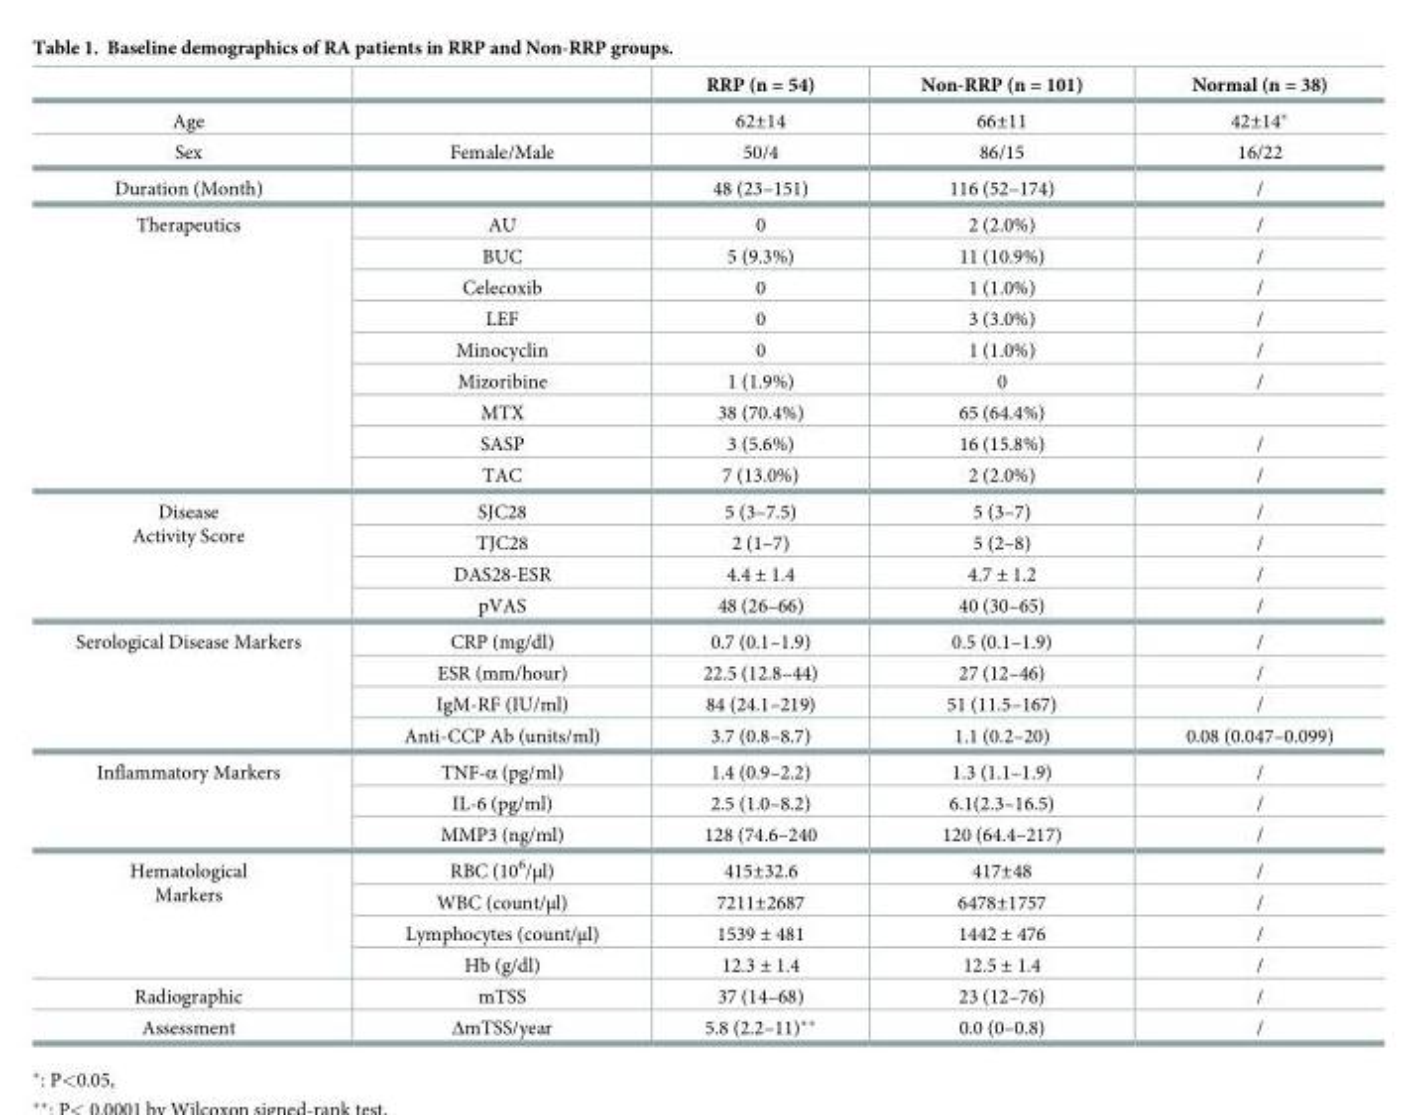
<table><thead><tr><td></td><td></td><td>RRP (n = 54)</td><td>Non-RRP (n = 101)</td><td>Normal (n = 38)</td></tr></thead><tbody><tr><td>Age</td><td></td><td>62±14</td><td>66±11</td><td>42±14*</td></tr><tr><td>Sex</td><td>Female/Male</td><td>50/4</td><td>86/15</td><td>16/22</td></tr><tr><td>Duration (Month)</td><td></td><td>48 (23–151)</td><td>116 (52–174)</td><td>/</td></tr><tr><td rowspan="9">Therapeutics</td><td>AU</td><td>0</td><td>2 (2.0%)</td><td>/</td></tr><tr><td>BUC</td><td>5 (9.3%)</td><td>11 (10.9%)</td><td>/</td></tr><tr><td>Celecoxib</td><td>0</td><td>1 (1.0%)</td><td>/</td></tr><tr><td>LEF</td><td>0</td><td>3 (3.0%)</td><td>/</td></tr><tr><td>Minocyclin</td><td>0</td><td>1 (1.0%)</td><td>/</td></tr><tr><td>Mizoribine</td><td>1 (1.9%)</td><td>0</td><td>/</td></tr><tr><td>MTX</td><td>38 (70.4%)</td><td>65 (64.4%)</td><td></td></tr><tr><td>SASP</td><td>3 (5.6%)</td><td>16 (15.8%)</td><td>/</td></tr><tr><td>TAC</td><td>7 (13.0%)</td><td>2 (2.0%)</td><td>/</td></tr><tr><td rowspan="4">Disease Activity Score</td><td>SJC28</td><td>5 (3–7.5)</td><td>5 (3–7)</td><td>/</td></tr><tr><td>TJC28</td><td>2 (1–7)</td><td>5 (2–8)</td><td>/</td></tr><tr><td>DAS28-ESR</td><td>4.4 ± 1.4</td><td>4.7 ± 1.2</td><td>/</td></tr><tr><td>pVAS</td><td>48 (26–66)</td><td>40 (30–65)</td><td>/</td></tr><tr><td rowspan="4">Serological Disease Markers</td><td>CRP (mg/dl)</td><td>0.7 (0.1–1.9)</td><td>0.5 (0.1–1.9)</td><td>/</td></tr><tr><td>ESR (mm/hour)</td><td>22.5 (12.8–44)</td><td>27 (12–46)</td><td>/</td></tr><tr><td>IgM-RF (IU/ml)</td><td>84 (24.1–219)</td><td>51 (11.5–167)</td><td>/</td></tr><tr><td>Anti-CCP Ab (units/ml)</td><td>3.7 (0.8–8.7)</td><td>1.1 (0.2–20)</td><td>0.08 (0.047–0.099)</td></tr><tr><td rowspan="3">Inflammatory Markers</td><td>TNF-α (pg/ml)</td><td>1.4 (0.9–2.2)</td><td>1.3 (1.1–1.9)</td><td>/</td></tr><tr><td>IL-6 (pg/ml)</td><td>2.5 (1.0–8.2)</td><td>6.1(2.3–16.5)</td><td>/</td></tr><tr><td>MMP3 (ng/ml)</td><td>128 (74.6–240</td><td>120 (64.4–217)</td><td>/</td></tr><tr><td rowspan="4">Hematological Markers</td><td>RBC (10<sup>6</sup>/μl)</td><td>415±32.6</td><td>417±48</td><td>/</td></tr><tr><td>WBC (count/μl)</td><td>7211±2687</td><td>6478±1757</td><td>/</td></tr><tr><td>Lymphocytes (count/μl)</td><td>1539 ± 481</td><td>1442 ± 476</td><td>/</td></tr><tr><td>Hb (g/dl)</td><td>12.3 ± 1.4</td><td>12.5 ± 1.4</td><td>/</td></tr><tr><td>Radiographic</td><td>mTSS</td><td>37 (14–68)</td><td>23 (12–76)</td><td>/</td></tr><tr><td>Assessment</td><td>ΔmTSS/year</td><td>5.8 (2.2–11)**</td><td>0.0 (0–0.8)</td><td>/</td></tr></tbody></table>